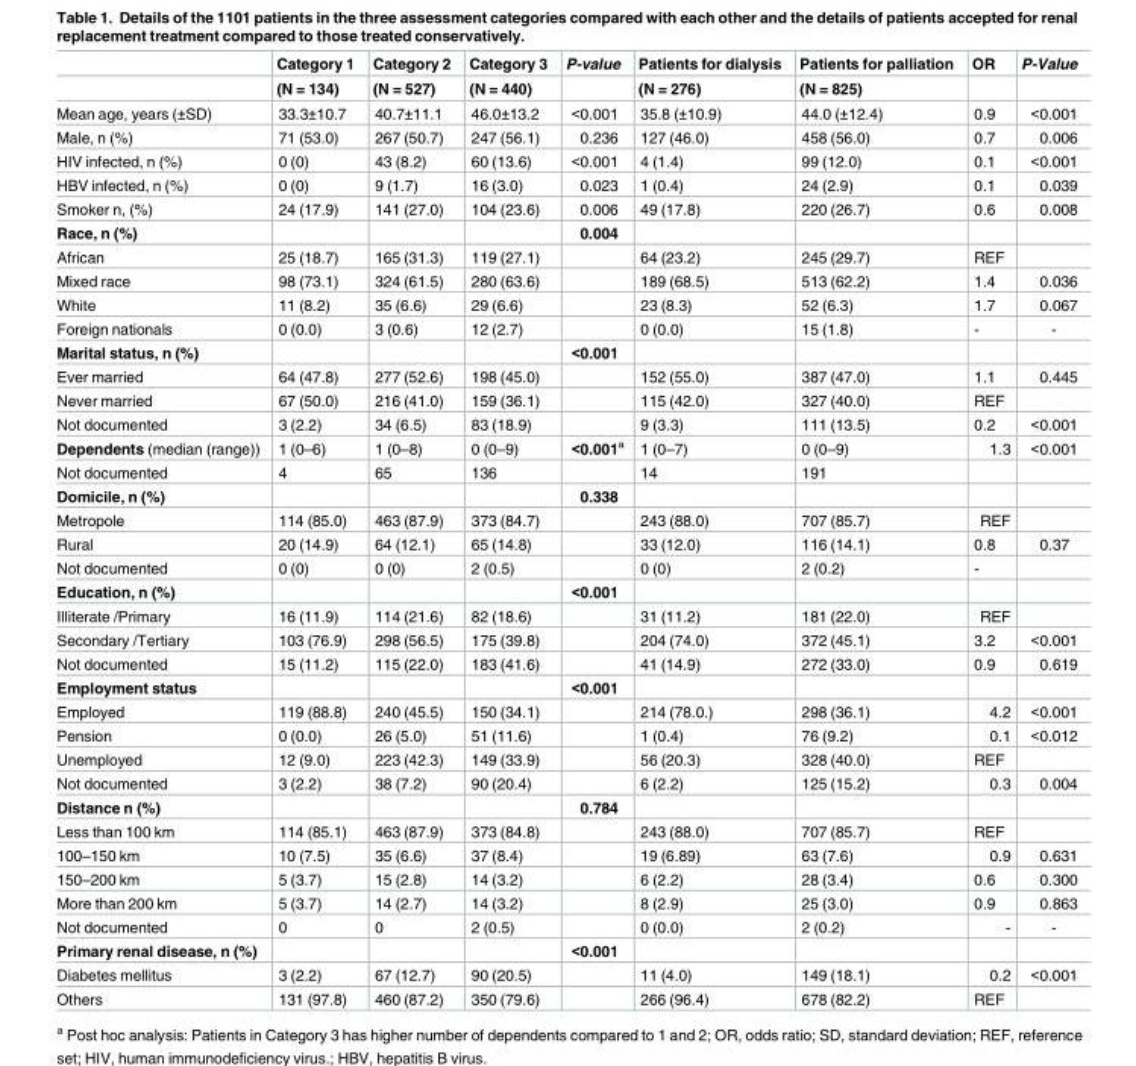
<table><thead><tr><td rowspan="2"></td><td rowspan="2">Category 1 (N = 134)</td><td rowspan="2">Category 2 (N = 527)</td><td rowspan="2">Category 3 (N = 440)</td><td rowspan="2">P-value</td><td rowspan="2">Patients for dialysis (N = 276)</td><td rowspan="2">Patients for palliation (N = 825)</td><td rowspan="2">OR</td><td rowspan="2">P-Value</td></tr><tr></tr></thead><tbody><tr><td>Mean age, years (±SD)</td><td>33.3±10.7</td><td>40.7±11.1</td><td>46.0±13.2</td><td>&lt;0.001</td><td>35.8 (±10.9)</td><td>44.0 (±12.4)</td><td>0.9</td><td>&lt;0.001</td></tr><tr><td>Male, n (%)</td><td>71 (53.0)</td><td>267 (50.7)</td><td>247 (56.1)</td><td>0.236</td><td>127 (46.0)</td><td>458 (56.0)</td><td>0.7</td><td>0.006</td></tr><tr><td>HIV infected, n (%)</td><td>0 (0)</td><td>43 (8.2)</td><td>60 (13.6)</td><td>&lt;0.001</td><td>4 (1.4)</td><td>99 (12.0)</td><td>0.1</td><td>&lt;0.001</td></tr><tr><td>HBV infected, n (%)</td><td>0 (0)</td><td>9 (1.7)</td><td>16 (3.0)</td><td>0.023</td><td>1 (0.4)</td><td>24 (2.9)</td><td>0.1</td><td>0.039</td></tr><tr><td>Smoker n, (%)</td><td>24 (17.9)</td><td>141 (27.0)</td><td>104 (23.6)</td><td>0.006</td><td>49 (17.8)</td><td>220 (26.7)</td><td>0.6</td><td>0.008</td></tr><tr><td>Race, n (%)</td><td></td><td></td><td></td><td>0.004</td><td></td><td></td><td></td><td></td></tr><tr><td>African</td><td>25 (18.7)</td><td>165 (31.3)</td><td>119 (27.1)</td><td></td><td>64 (23.2)</td><td>245 (29.7)</td><td>REF</td><td></td></tr><tr><td>Mixed race</td><td>98 (73.1)</td><td>324 (61.5)</td><td>280 (63.6)</td><td></td><td>189 (68.5)</td><td>513 (62.2)</td><td>1.4</td><td>0.036</td></tr><tr><td>White</td><td>11 (8.2)</td><td>35 (6.6)</td><td>29 (6.6)</td><td></td><td>23 (8.3)</td><td>52 (6.3)</td><td>1.7</td><td>0.067</td></tr><tr><td>Foreign nationals</td><td>0 (0.0)</td><td>3 (0.6)</td><td>12 (2.7)</td><td></td><td>0 (0.0)</td><td>15 (1.8)</td><td>-</td><td>-</td></tr><tr><td>Marital status, n (%)</td><td></td><td></td><td></td><td>&lt;0.001</td><td></td><td></td><td></td><td></td></tr><tr><td>Ever married</td><td>64 (47.8)</td><td>277 (52.6)</td><td>198 (45.0)</td><td></td><td>152 (55.0)</td><td>387 (47.0)</td><td>1.1</td><td>0.445</td></tr><tr><td>Never married</td><td>67 (50.0)</td><td>216 (41.0)</td><td>159 (36.1)</td><td></td><td>115 (42.0)</td><td>327 (40.0)</td><td>REF</td><td></td></tr><tr><td>Not documented</td><td>3 (2.2)</td><td>34 (6.5)</td><td>83 (18.9)</td><td></td><td>9 (3.3)</td><td>111 (13.5)</td><td>0.2</td><td>&lt;0.001</td></tr><tr><td>Dependents (median (range))</td><td>1 (0–6)</td><td>1 (0–8)</td><td>0 (0–9)</td><td>&lt;0.001<sup>a</sup></td><td>1 (0–7)</td><td>0 (0–9)</td><td>1.3</td><td>&lt;0.001</td></tr><tr><td>Not documented</td><td>4</td><td>65</td><td>136</td><td></td><td>14</td><td>191</td><td></td><td></td></tr><tr><td>Domicile, n (%)</td><td></td><td></td><td></td><td>0.338</td><td></td><td></td><td></td><td></td></tr><tr><td>Metropole</td><td>114 (85.0)</td><td>463 (87.9)</td><td>373 (84.7)</td><td></td><td>243 (88.0)</td><td>707 (85.7)</td><td>REF</td><td></td></tr><tr><td>Rural</td><td>20 (14.9)</td><td>64 (12.1)</td><td>65 (14.8)</td><td></td><td>33 (12.0)</td><td>116 (14.1)</td><td>0.8</td><td>0.37</td></tr><tr><td>Not documented</td><td>0 (0)</td><td>0 (0)</td><td>2 (0.5)</td><td></td><td>0 (0)</td><td>2 (0.2)</td><td>-</td><td></td></tr><tr><td>Education, n (%)</td><td></td><td></td><td></td><td>&lt;0.001</td><td></td><td></td><td></td><td></td></tr><tr><td>Illiterate /Primary</td><td>16 (11.9)</td><td>114 (21.6)</td><td>82 (18.6)</td><td></td><td>31 (11.2)</td><td>181 (22.0)</td><td>REF</td><td></td></tr><tr><td>Secondary /Tertiary</td><td>103 (76.9)</td><td>298 (56.5)</td><td>175 (39.8)</td><td></td><td>204 (74.0)</td><td>372 (45.1)</td><td>3.2</td><td>&lt;0.001</td></tr><tr><td>Not documented</td><td>15 (11.2)</td><td>115 (22.0)</td><td>183 (41.6)</td><td></td><td>41 (14.9)</td><td>272 (33.0)</td><td>0.9</td><td>0.619</td></tr><tr><td>Employment status</td><td></td><td></td><td></td><td>&lt;0.001</td><td></td><td></td><td></td><td></td></tr><tr><td>Employed</td><td>119 (88.8)</td><td>240 (45.5)</td><td>150 (34.1)</td><td></td><td>214 (78.0.)</td><td>298 (36.1)</td><td>4.2</td><td>&lt;0.001</td></tr><tr><td>Pension</td><td>0 (0.0)</td><td>26 (5.0)</td><td>51 (11.6)</td><td></td><td>1 (0.4)</td><td>76 (9.2)</td><td>0.1</td><td>&lt;0.012</td></tr><tr><td>Unemployed</td><td>12 (9.0)</td><td>223 (42.3)</td><td>149 (33.9)</td><td></td><td>56 (20.3)</td><td>328 (40.0)</td><td>REF</td><td></td></tr><tr><td>Not documented</td><td>3 (2.2)</td><td>38 (7.2)</td><td>90 (20.4)</td><td></td><td>6 (2.2)</td><td>125 (15.2)</td><td>0.3</td><td>0.004</td></tr><tr><td>Distance n (%)</td><td></td><td></td><td></td><td>0.784</td><td></td><td></td><td></td><td></td></tr><tr><td>Less than 100 km</td><td>114 (85.1)</td><td>463 (87.9)</td><td>373 (84.8)</td><td></td><td>243 (88.0)</td><td>707 (85.7)</td><td>REF</td><td></td></tr><tr><td>100–150 km</td><td>10 (7.5)</td><td>35 (6.6)</td><td>37 (8.4)</td><td></td><td>19 (6.89)</td><td>63 (7.6)</td><td>0.9</td><td>0.631</td></tr><tr><td>150–200 km</td><td>5 (3.7)</td><td>15 (2.8)</td><td>14 (3.2)</td><td></td><td>6 (2.2)</td><td>28 (3.4)</td><td>0.6</td><td>0.300</td></tr><tr><td>More than 200 km</td><td>5 (3.7)</td><td>14 (2.7)</td><td>14 (3.2)</td><td></td><td>8 (2.9)</td><td>25 (3.0)</td><td>0.9</td><td>0.863</td></tr><tr><td>Not documented</td><td>0</td><td>0</td><td>2 (0.5)</td><td></td><td>0 (0.0)</td><td>2 (0.2)</td><td>-</td><td>-</td></tr><tr><td>Primary renal disease, n (%)</td><td></td><td></td><td></td><td>&lt;0.001</td><td></td><td></td><td></td><td></td></tr><tr><td>Diabetes mellitus</td><td>3 (2.2)</td><td>67 (12.7)</td><td>90 (20.5)</td><td></td><td>11 (4.0)</td><td>149 (18.1)</td><td>0.2</td><td>&lt;0.001</td></tr><tr><td>Others</td><td>131 (97.8)</td><td>460 (87.2)</td><td>350 (79.6)</td><td></td><td>266 (96.4)</td><td>678 (82.2)</td><td>REF</td><td></td></tr></tbody></table>